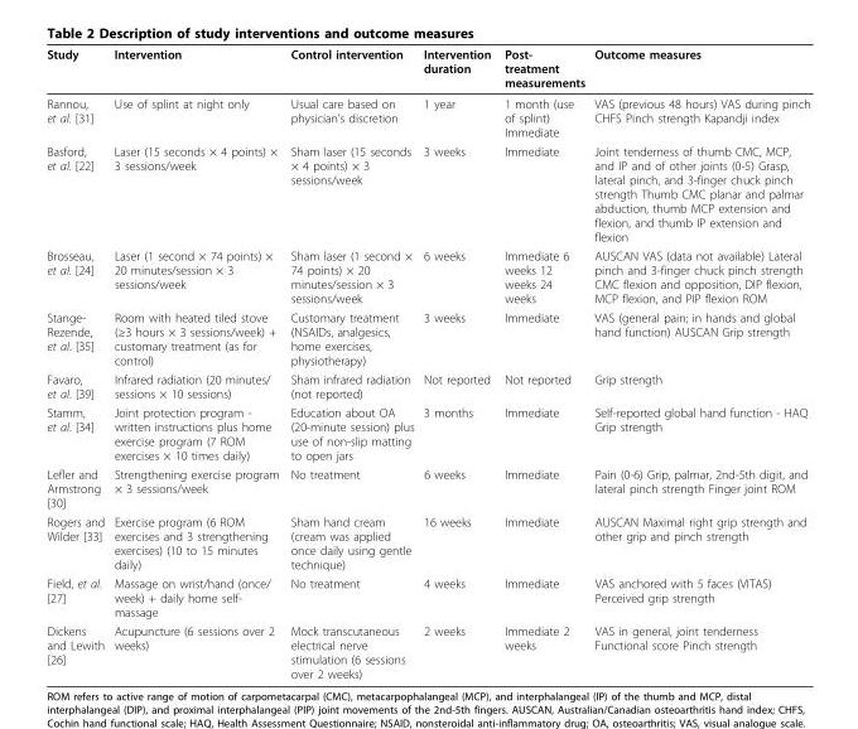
<table><thead><tr><td>Study</td><td>Intervention</td><td>Control intervention</td><td>Intervention duration</td><td>Post- treatment measurements</td><td>Outcome measures</td></tr></thead><tbody><tr><td>Rannou, et al. [31]</td><td>Use of splint at night only</td><td>Usual care based on physician’s discretion</td><td>1 year</td><td>1 month (use of splint) Immediate</td><td>VAS (previous 48 hours) VAS during pinch CHFS Pinch strength Kapandji index</td></tr><tr><td>Basford, et al. [22]</td><td>Laser (15 seconds × 4 points) × 3 sessions/week</td><td>Sham laser (15 seconds × 4 points) × 3 sessions/week</td><td>3 weeks</td><td>Immediate</td><td>Joint tenderness of thumb CMC, MCP, and IP and of other joints (0-5) Grasp, lateral pinch, and 3-finger chuck pinch strength Thumb CMC planar and palmar abduction, thumb MCP extension and flexion, and thumb IP extension and flexion</td></tr><tr><td>Brosseau, et al. [24]</td><td>Laser (1 second × 74 points) × 20 minutes/session × 3 sessions/week</td><td>Sham laser (1 second × 74 points) × 20 minutes/session × 3 sessions/week</td><td>6 weeks</td><td>Immediate 6 weeks 12 weeks 24 weeks</td><td>AUSCAN VAS (data not available) Lateral pinch and 3-finger chuck pinch strength CMC flexion and opposition, DIP flexion, MCP flexion, and PIP flexion ROM</td></tr><tr><td>Stange- Rezende, et al. [35]</td><td>Room with heated tiled stove (≥3 hours × 3 sessions/week) + customary treatment (as for control)</td><td>Customary treatment (NSAIDs, analgesics, home exercises, physiotherapy)</td><td>3 weeks</td><td>Immediate</td><td>VAS (general pain; in hands and global hand function) AUSCAN Grip strength</td></tr><tr><td>Favaro, et al. [39]</td><td>Infrared radiation (20 minutes/ sessions × 10 sessions)</td><td>Sham infrared radiation (not reported)</td><td>Not reported</td><td>Not reported</td><td>Grip strength</td></tr><tr><td>Stamm, et al. [34]</td><td>Joint protection program - written instructions plus home exercise program (7 ROM exercises × 10 times daily)</td><td>Education about OA (20-minute session) plus use of non-slip matting to open jars</td><td>3 months</td><td>Immediate</td><td>Self-reported global hand function - HAQ Grip strength</td></tr><tr><td>Lefler and Armstrong [30]</td><td>Strengthening exercise program × 3 sessions/week</td><td>No treatment</td><td>6 weeks</td><td>Immediate</td><td>Pain (0-6) Grip, palmar, 2nd-5th digit, and lateral pinch strength Finger joint ROM</td></tr><tr><td>Rogers and Wilder [33]</td><td>Exercise program (6 ROM exercises and 3 strengthening exercises) (10 to 15 minutes daily)</td><td>Sham hand cream (cream was applied once daily using gentle technique)</td><td>16 weeks</td><td>Immediate</td><td>AUSCAN Maximal right grip strength and other grip and pinch strength</td></tr><tr><td>Field, et al. [27]</td><td>Massage on wrist/hand (once/ week) + daily home self- massage</td><td>No treatment</td><td>4 weeks</td><td>Immediate</td><td>VAS anchored with 5 faces (VITAS) Perceived grip strength</td></tr><tr><td>Dickens and Lewith [26]</td><td>Acupuncture (6 sessions over 2 weeks)</td><td>Mock transcutaneous electrical nerve stimulation (6 sessions over 2 weeks)</td><td>2 weeks</td><td>Immediate 2 weeks</td><td>VAS in general, joint tenderness Functional score Pinch strength</td></tr></tbody></table>